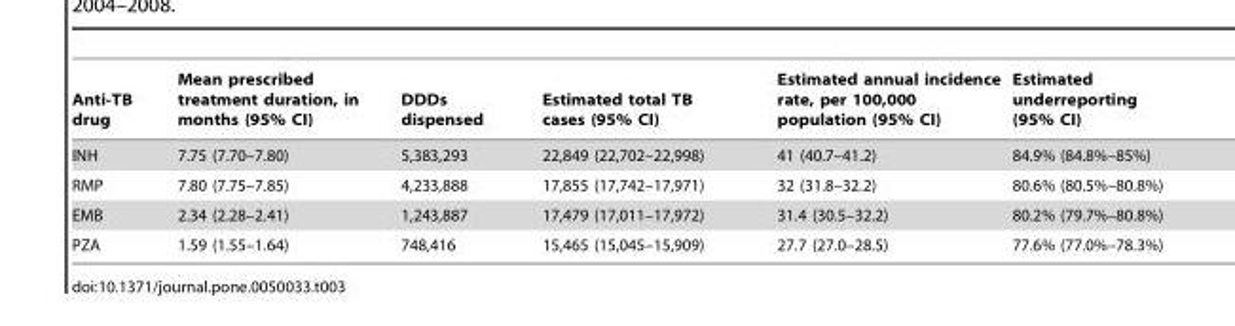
<table><thead><tr><td>Anti-TB drug</td><td>Mean prescribed treatment duration, in months (95% CI)</td><td>DDDs dispensed</td><td>Estimated total TB cases (95% CI)</td><td>Estimated annual incidence rate, per 100,000 population (95% CI)</td><td>Estimated underreporting (95% CI)</td></tr></thead><tbody><tr><td>INH</td><td>7.75 (7.70–7.80)</td><td>5,383,293</td><td>22,849 (22,702–22,998)</td><td>41 (40.7–41.2)</td><td>84.9% (84.8%–85%)</td></tr><tr><td>RMP</td><td>7.80 (7.75–7.85)</td><td>4,233,888</td><td>17,855 (17,742–17,971)</td><td>32 (31.8–32.2)</td><td>80.6% (80.5%–80.8%)</td></tr><tr><td>EMB</td><td>2.34 (2.28–2.41)</td><td>1,243,887</td><td>17,479 (17,011–17,972)</td><td>31.4 (30.5–32.2)</td><td>80.2% (79.7%–80.8%)</td></tr><tr><td>PZA</td><td>1.59 (1.55–1.64)</td><td>748,416</td><td>15,465 (15,045–15,909)</td><td>27.7 (27.0–28.5)</td><td>77.6% (77.0%–78.3%)</td></tr></tbody></table>